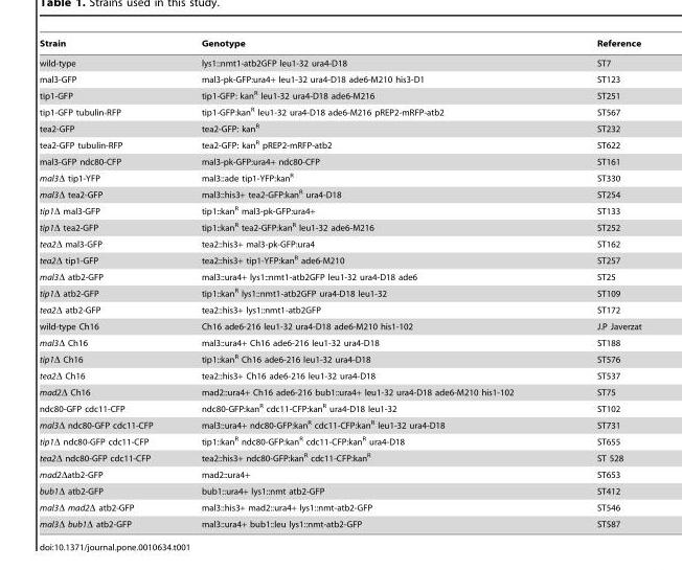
<table><thead><tr><td>Strain</td><td>Genotype</td><td>Reference</td></tr></thead><tbody><tr><td>wild-type</td><td>lys1::nmt1-atb2GFP leu1-32 ura4-D18</td><td>ST7</td></tr><tr><td>mal3-GFP</td><td>mal3-pk-GFP:ura4+ leu1-32 ura4-D18 ade6-M210 his3-D1</td><td>ST123</td></tr><tr><td>tip1-GFP</td><td>tip1-GFP: kan<sup>R</sup> leu1-32 ura4-D18 ade6-M216</td><td>ST251</td></tr><tr><td>tip1-GFP tubulin-RFP</td><td>tip1-GFP:kan<sup>R</sup> leu1-32 ura4-D18 ade6-M216 pREP2-mRFP-atb2</td><td>ST567</td></tr><tr><td>tea2-GFP</td><td>tea2-GFP: kan<sup>R</sup></td><td>ST232</td></tr><tr><td>tea2-GFP tubulin-RFP</td><td>tea2-GFP: kan<sup>R</sup> pREP2-mRFP-atb2</td><td>ST622</td></tr><tr><td>mal3-GFP ndc80-CFP</td><td>mal3-pk-GFP:ura4+ ndc80-CFP</td><td>ST161</td></tr><tr><td>mal3Δ tip1-YFP</td><td>mal3::ade tip1-YFP:kan<sup>R</sup></td><td>ST330</td></tr><tr><td>mal3Δ tea2-GFP</td><td>mal3::his3+ tea2-GFP:kan<sup>R</sup> ura4-D18</td><td>ST254</td></tr><tr><td>tip1Δ mal3-GFP</td><td>tip1::kan<sup>R</sup> mal3-pk-GFP:ura4+</td><td>ST133</td></tr><tr><td>tip1Δ tea2-GFP</td><td>tip1::kan<sup>R</sup> tea2-GFP:kan<sup>R</sup> leu1-32 ade6-M216</td><td>ST252</td></tr><tr><td>tea2Δ mal3-GFP</td><td>tea2::his3+ mal3-pk-GFP:ura4</td><td>ST162</td></tr><tr><td>tea2Δ tip1-GFP</td><td>tea2::his3+ tip1-YFP:kan<sup>R</sup> ade6-M210</td><td>ST257</td></tr><tr><td>mal3Δ atb2-GFP</td><td>mal3::ura4+ lys1::nmt1-atb2GFP leu1-32 ura4-D18 ade6</td><td>ST25</td></tr><tr><td>tip1Δ atb2-GFP</td><td>tip1::kan<sup>R</sup> lys1::nmt1-atb2GFP ura4-D18 leu1-32</td><td>ST109</td></tr><tr><td>tea2Δ atb2-GFP</td><td>tea2::his3+ lys1::nmt1-atb2GFP</td><td>ST172</td></tr><tr><td>wild-type Ch16</td><td>Ch16 ade6-216 leu1-32 ura4-D18 ade6-M210 his1-102</td><td>J.P Javerzat</td></tr><tr><td>mal3Δ Ch16</td><td>mal3::ura4+ Ch16 ade6-216 leu1-32 ura4-D18</td><td>ST188</td></tr><tr><td>tip1Δ Ch16</td><td>tip1::kan<sup>R</sup> Ch16 ade6-216 leu1-32 ura4-D18</td><td>ST576</td></tr><tr><td>tea2Δ Ch16</td><td>tea2::his3+ Ch16 ade6-216 leu1-32 ura4-D18</td><td>ST537</td></tr><tr><td>mad2Δ Ch16</td><td>mad2::ura4+ Ch16 ade6-216 bub1::ura4+ leu1-32 ura4-D18 ade6-M210 his1-102</td><td>ST75</td></tr><tr><td>ndc80-GFP cdc11-CFP</td><td>ndc80-GFP:kan<sup>R</sup> cdc11-CFP:kan<sup>R</sup> ura4-D18 leu1-32</td><td>ST102</td></tr><tr><td>mal3Δ ndc80-GFP cdc11-CFP</td><td>mal3::ura4+ ndc80-GFP:kan<sup>R</sup> cdc11-CFP:kan<sup>R</sup> leu1-32 ura4-D18</td><td>ST731</td></tr><tr><td>tip1Δ ndc80-GFP cdc11-CFP</td><td>tip1::kan<sup>R</sup> ndc80-GFP:kan<sup>R</sup> cdc11-CFP:kan<sup>R</sup> ura4-D18</td><td>ST655</td></tr><tr><td>tea2Δ ndc80-GFP cdc11-CFP</td><td>tea2::his3+ ndc80-GFP:kan<sup>R</sup> cdc11-CFP:kan<sup>R</sup></td><td>ST 528</td></tr><tr><td>mad2Δatb2-GFP</td><td>mad2::ura4+</td><td>ST653</td></tr><tr><td>bub1Δ atb2-GFP</td><td>bub1::ura4+ lys1::nmt atb2-GFP</td><td>ST412</td></tr><tr><td>mal3Δ mad2Δ atb2-GFP</td><td>mal3::his3+ mad2::ura4+ lys1::nmt-atb2-GFP</td><td>ST546</td></tr><tr><td>mal3Δ bub1Δ atb2-GFP</td><td>mal3::ura4+ bub1::leu lys1::nmt-atb2-GFP</td><td>ST587</td></tr></tbody></table>